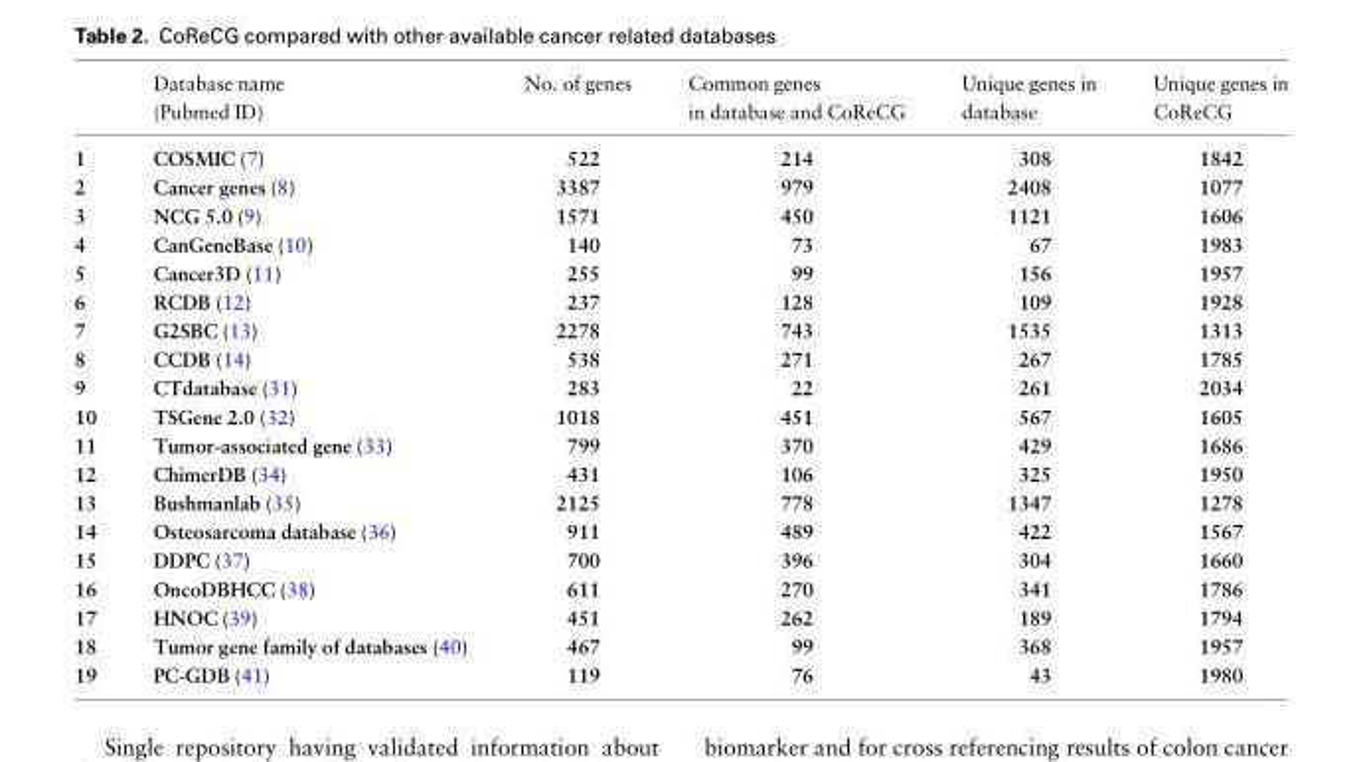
<table><thead><tr><td></td><td>Database name (Pubmed ID)</td><td>No. of genes</td><td>Common genes in database and CoReCG</td><td>Unique genes in database</td><td>Unique genes in CoReCG</td></tr></thead><tbody><tr><td>1</td><td>COSMIC (7)</td><td>522</td><td>214</td><td>308</td><td>1842</td></tr><tr><td>2</td><td>Cancer genes (8)</td><td>3387</td><td>979</td><td>2408</td><td>1077</td></tr><tr><td>3</td><td>NCG 5.0 (9)</td><td>1571</td><td>450</td><td>1121</td><td>1606</td></tr><tr><td>4</td><td>CanGeneBase (10)</td><td>140</td><td>73</td><td>67</td><td>1983</td></tr><tr><td>5</td><td>Cancer3D (11)</td><td>255</td><td>99</td><td>156</td><td>1957</td></tr><tr><td>6</td><td>RCDB (12)</td><td>237</td><td>128</td><td>109</td><td>1928</td></tr><tr><td>7</td><td>G2SBC (13)</td><td>2278</td><td>743</td><td>1535</td><td>1313</td></tr><tr><td>8</td><td>CCDB (14)</td><td>538</td><td>271</td><td>267</td><td>1785</td></tr><tr><td>9</td><td>CTdatabase (31)</td><td>283</td><td>22</td><td>261</td><td>2034</td></tr><tr><td>10</td><td>TSGene 2.0 (32)</td><td>1018</td><td>451</td><td>567</td><td>1605</td></tr><tr><td>11</td><td>Tumor-associated gene (33)</td><td>799</td><td>370</td><td>429</td><td>1686</td></tr><tr><td>12</td><td>ChimerDB (34)</td><td>431</td><td>106</td><td>325</td><td>1950</td></tr><tr><td>13</td><td>Bushmanlab (35)</td><td>2125</td><td>778</td><td>1347</td><td>1278</td></tr><tr><td>14</td><td>Osteosarcoma database (36)</td><td>911</td><td>489</td><td>422</td><td>1567</td></tr><tr><td>15</td><td>DDPC (37)</td><td>700</td><td>396</td><td>304</td><td>1660</td></tr><tr><td>16</td><td>OncoDBHCC (38)</td><td>611</td><td>270</td><td>341</td><td>1786</td></tr><tr><td>17</td><td>HNOC (39)</td><td>451</td><td>262</td><td>189</td><td>1794</td></tr><tr><td>18</td><td>Tumor gene family of databases (40)</td><td>467</td><td>99</td><td>368</td><td>1957</td></tr><tr><td>19</td><td>PC-GDB (41)</td><td>119</td><td>76</td><td>43</td><td>1980</td></tr></tbody></table>